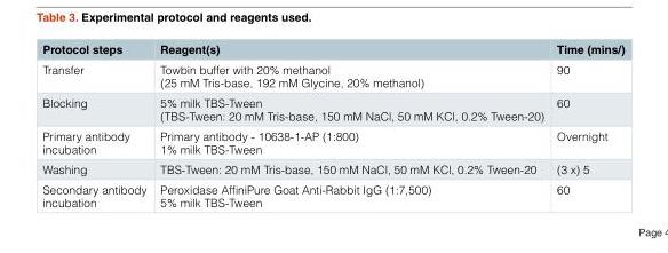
<table><thead><tr><td>Protocol steps</td><td>Reagent(s)</td><td>Time (mins/)</td></tr></thead><tbody><tr><td>Transfer</td><td>Towbin buffer with 20% methanol (25 mM Tris-base, 192 mM Glycine, 20% methanol)</td><td>90</td></tr><tr><td>Blocking</td><td>5% milk TBS-Tween (TBS-Tween: 20 mM Tris-base, 150 mM NaCl, 50 mM KCl, 0.2% Tween-20)</td><td>60</td></tr><tr><td>Primary antibody incubation</td><td>Primary antibody - 10638-1-AP (1:800) 1% milk TBS-Tween</td><td>Overnight</td></tr><tr><td>Washing</td><td>TBS-Tween: 20 mM Tris-base, 150 mM NaCl, 50 mM KCl, 0.2% Tween-20</td><td>(3 x) 5</td></tr><tr><td>Secondary antibody incubation</td><td>Peroxidase AffiniPure Goat Anti-Rabbit IgG (1:7,500) 5% milk TBS-Tween</td><td>60</td></tr></tbody></table>